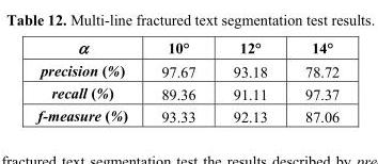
<table><thead><tr><td>α</td><td>10°</td><td>12°</td><td>14°</td></tr></thead><tbody><tr><td>precision (%)</td><td>97.67</td><td>93.18</td><td>78.72</td></tr><tr><td>recall (%)</td><td>89.36</td><td>91.11</td><td>97.37</td></tr><tr><td>f-measure (%)</td><td>93.33</td><td>92.13</td><td>87.06</td></tr></tbody></table>